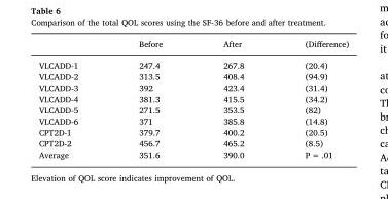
<table><thead><tr><td></td><td>Before</td><td>After</td><td>(Difference)</td></tr></thead><tbody><tr><td>VLCADD-1</td><td>247.4</td><td>267.8</td><td>(20.4)</td></tr><tr><td>VLCADD-2</td><td>313.5</td><td>408.4</td><td>(94.9)</td></tr><tr><td>VLCADD-3</td><td>392</td><td>423.4</td><td>(31.4)</td></tr><tr><td>VLCADD-4</td><td>381.3</td><td>415.5</td><td>(34.2)</td></tr><tr><td>VLCADD-5</td><td>271.5</td><td>353.5</td><td>(82)</td></tr><tr><td>VLCADD-6</td><td>371</td><td>385.8</td><td>(14.8)</td></tr><tr><td>CPT2D-1</td><td>379.7</td><td>400.2</td><td>(20.5)</td></tr><tr><td>CPT2D-2</td><td>456.7</td><td>465.2</td><td>(8.5)</td></tr><tr><td>Average</td><td>351.6</td><td>390.0</td><td>P = .01</td></tr></tbody></table>